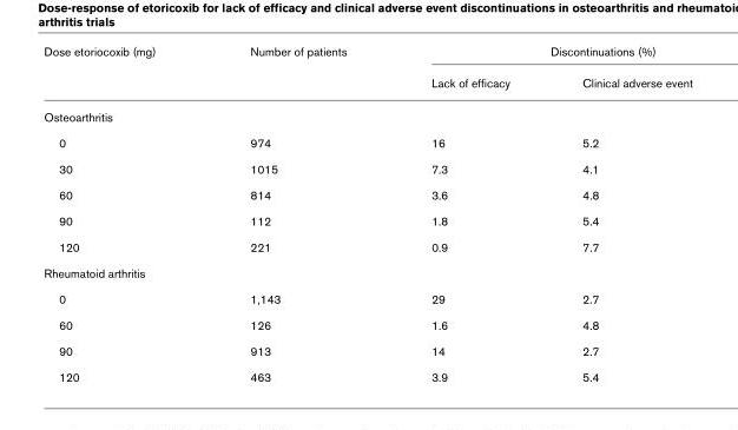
<table><thead><tr><td rowspan="2">Dose etoriocoxib (mg)</td><td rowspan="2">Number of patients</td><td colspan="2">Discontinuations (%)</td></tr><tr><td>Lack of efficacy</td><td>Clinical adverse event</td></tr></thead><tbody><tr><td colspan="4">Osteoarthritis</td></tr><tr><td>0</td><td>974</td><td>16</td><td>5.2</td></tr><tr><td>30</td><td>1015</td><td>7.3</td><td>4.1</td></tr><tr><td>60</td><td>814</td><td>3.6</td><td>4.8</td></tr><tr><td>90</td><td>112</td><td>1.8</td><td>5.4</td></tr><tr><td>120</td><td>221</td><td>0.9</td><td>7.7</td></tr><tr><td colspan="4">Rheumatoid arthritis</td></tr><tr><td>0</td><td>1,143</td><td>29</td><td>2.7</td></tr><tr><td>60</td><td>126</td><td>1.6</td><td>4.8</td></tr><tr><td>90</td><td>913</td><td>14</td><td>2.7</td></tr><tr><td>120</td><td>463</td><td>3.9</td><td>5.4</td></tr></tbody></table>